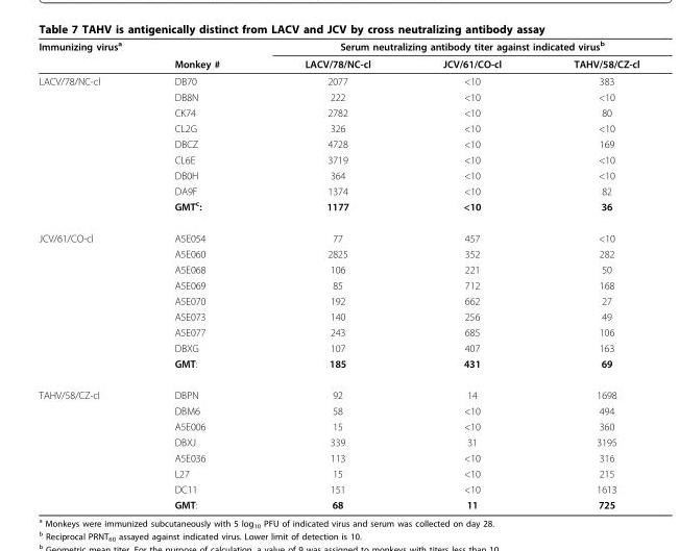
<table><thead><tr><td rowspan="2">Immunizing virus<sup>a</sup></td><td rowspan="2">Monkey #</td><td colspan="3">Serum neutralizing antibody titer against indicated virus<sup>b</sup></td></tr><tr><td>LACV/78/NC-cl</td><td>JCV/61/CO-cl</td><td>TAHV/58/CZ-cl</td></tr></thead><tbody><tr><td rowspan="9">LACV/78/NC-cl</td><td>DB70</td><td>2077</td><td>&lt;10</td><td>383</td></tr><tr><td>DB8N</td><td>222</td><td>&lt;10</td><td>&lt;10</td></tr><tr><td>CK74</td><td>2782</td><td>&lt;10</td><td>80</td></tr><tr><td>CL2G</td><td>326</td><td>&lt;10</td><td>&lt;10</td></tr><tr><td>DBCZ</td><td>4728</td><td>&lt;10</td><td>169</td></tr><tr><td>CL6E</td><td>3719</td><td>&lt;10</td><td>&lt;10</td></tr><tr><td>DB0H</td><td>364</td><td>&lt;10</td><td>&lt;10</td></tr><tr><td>DA9F</td><td>1374</td><td>&lt;10</td><td>82</td></tr><tr><td>GMT<sup>c</sup>:</td><td>1177</td><td>&lt;10</td><td>36</td></tr><tr><td rowspan="9">JCV/61/CO-cl</td><td>A5E054</td><td>77</td><td>457</td><td>&lt;10</td></tr><tr><td>A5E060</td><td>2825</td><td>352</td><td>282</td></tr><tr><td>A5E068</td><td>106</td><td>221</td><td>50</td></tr><tr><td>A5E069</td><td>85</td><td>712</td><td>168</td></tr><tr><td>A5E070</td><td>192</td><td>662</td><td>27</td></tr><tr><td>A5E073</td><td>140</td><td>256</td><td>49</td></tr><tr><td>A5E077</td><td>243</td><td>685</td><td>106</td></tr><tr><td>DBXG</td><td>107</td><td>407</td><td>163</td></tr><tr><td>GMT:</td><td>185</td><td>431</td><td>69</td></tr><tr><td rowspan="8">TAHV/58/CZ-cl</td><td>DBPN</td><td>92</td><td>14</td><td>1698</td></tr><tr><td>DBM6</td><td>58</td><td>&lt;10</td><td>494</td></tr><tr><td>A5E006</td><td>15</td><td>&lt;10</td><td>360</td></tr><tr><td>DBXJ</td><td>339</td><td>31</td><td>3195</td></tr><tr><td>A5E036</td><td>113</td><td>&lt;10</td><td>316</td></tr><tr><td>L27</td><td>15</td><td>&lt;10</td><td>215</td></tr><tr><td>DC11</td><td>151</td><td>&lt;10</td><td>1613</td></tr><tr><td>GMT:</td><td>68</td><td>11</td><td>725</td></tr></tbody></table>